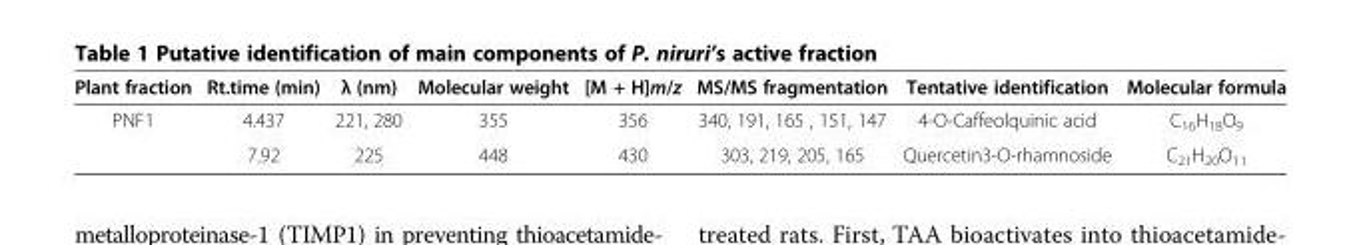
<table><thead><tr><td>Plant fraction</td><td>Rt.time (min)</td><td>λ (nm)</td><td>Molecular weight</td><td>[M + H]m/z</td><td>MS/MS fragmentation</td><td>Tentative identification</td><td>Molecular formula</td></tr></thead><tbody><tr><td rowspan="2">PNF1</td><td>4.437</td><td>221, 280</td><td>355</td><td>356</td><td>340, 191, 165 , 151, 147</td><td>4-O-Caffeolquinic acid</td><td>C<sub>16</sub>H<sub>18</sub>O<sub>9</sub></td></tr><tr><td>7.92</td><td>225</td><td>448</td><td>430</td><td>303, 219, 205, 165</td><td>Quercetin3-O-rhamnoside</td><td>C<sub>21</sub>H<sub>20</sub>O<sub>11</sub></td></tr></tbody></table>